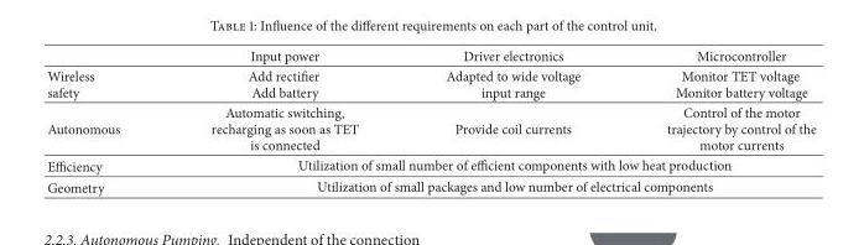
<table><thead><tr><td></td><td>Input power</td><td>Driver electronics</td><td>Microcontroller</td></tr></thead><tbody><tr><td>Wireless safety</td><td>Add rectifier Add battery</td><td>Adapted to wide voltage input range</td><td>Monitor TET voltage Monitor battery voltage</td></tr><tr><td>Autonomous</td><td>Automatic switching, recharging as soon as TET is connected</td><td>Provide coil currents</td><td>Control of the motor trajectory by control of the motor currents</td></tr><tr><td>Efficiency</td><td colspan="3">Utilization of small number of efficient components with low heat production</td></tr><tr><td>Geometry</td><td colspan="3">Utilization of small packages and low number of electrical components</td></tr></tbody></table>